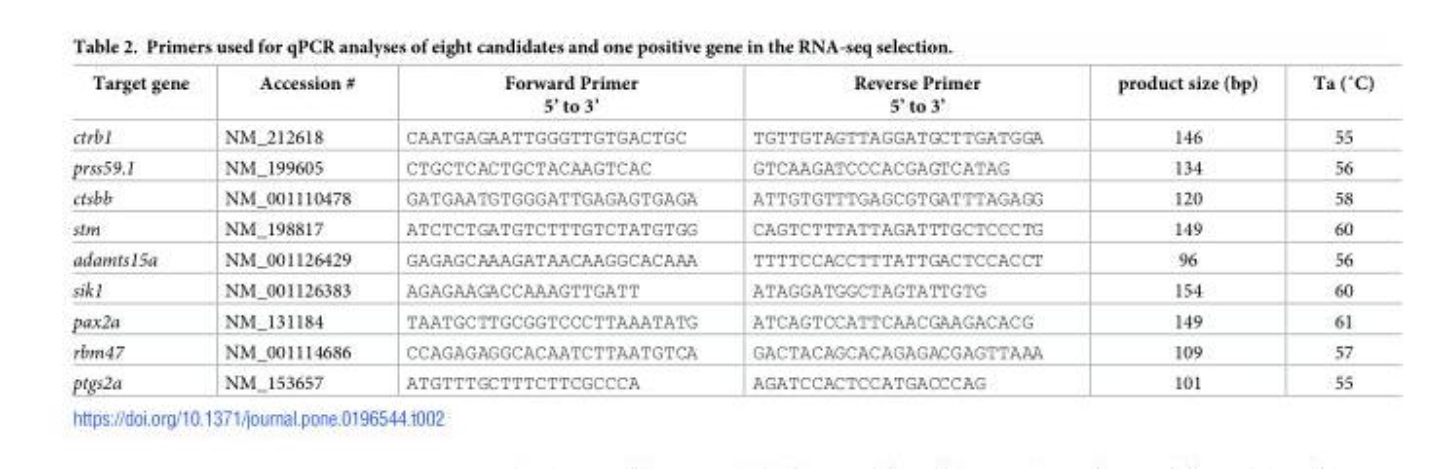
<table><thead><tr><td>Target gene</td><td>Accession #</td><td>Forward Primer 5’ to 3’</td><td>Reverse Primer 5’ to 3’</td><td>product size (bp)</td><td>Ta (˚C)</td></tr></thead><tbody><tr><td>ctrb1</td><td>NM_212618</td><td>CAATGAGAATTGGGTTGTGACTGC</td><td>TGTTGTAGTTAGGATGCTTGATGGA</td><td>146</td><td>55</td></tr><tr><td>prss59.1</td><td>NM_199605</td><td>CTGCTCACTGCTACAAGTCAC</td><td>GTCAAGATCCCACGAGTCATAG</td><td>134</td><td>56</td></tr><tr><td>ctsbb</td><td>NM_001110478</td><td>GATGAATGTGGGATTGAGAGTGAGA</td><td>ATTGTGTTTGAGCGTGATTTAGAGG</td><td>120</td><td>58</td></tr><tr><td>stm</td><td>NM_198817</td><td>ATCTCTGATGTCTTTGTCTATGTGG</td><td>CAGTCTTTATTAGATTTGCTCCCTG</td><td>149</td><td>60</td></tr><tr><td>adamts15a</td><td>NM_001126429</td><td>GAGAGCAAAGATAACAAGGCACAAA</td><td>TTTTCCACCTTTATTGACTCCACCT</td><td>96</td><td>56</td></tr><tr><td>sik1</td><td>NM_001126383</td><td>AGAGAAGACCAAAGTTGATT</td><td>ATAGGATGGCTAGTATTGTG</td><td>154</td><td>60</td></tr><tr><td>pax2a</td><td>NM_131184</td><td>TAATGCTTGCGGTCCCTTAAATATG</td><td>ATCAGTCCATTCAACGAAGACACG</td><td>149</td><td>61</td></tr><tr><td>rbm47</td><td>NM_001114686</td><td>CCAGAGAGGCACAATCTTAATGTCA</td><td>GACTACAGCACAGAGACGAGTTAAA</td><td>109</td><td>57</td></tr><tr><td>ptgs2a</td><td>NM_153657</td><td>ATGTTTGCTTTCTTCGCCCA</td><td>AGATCCACTCCATGACCCAG</td><td>101</td><td>55</td></tr></tbody></table>